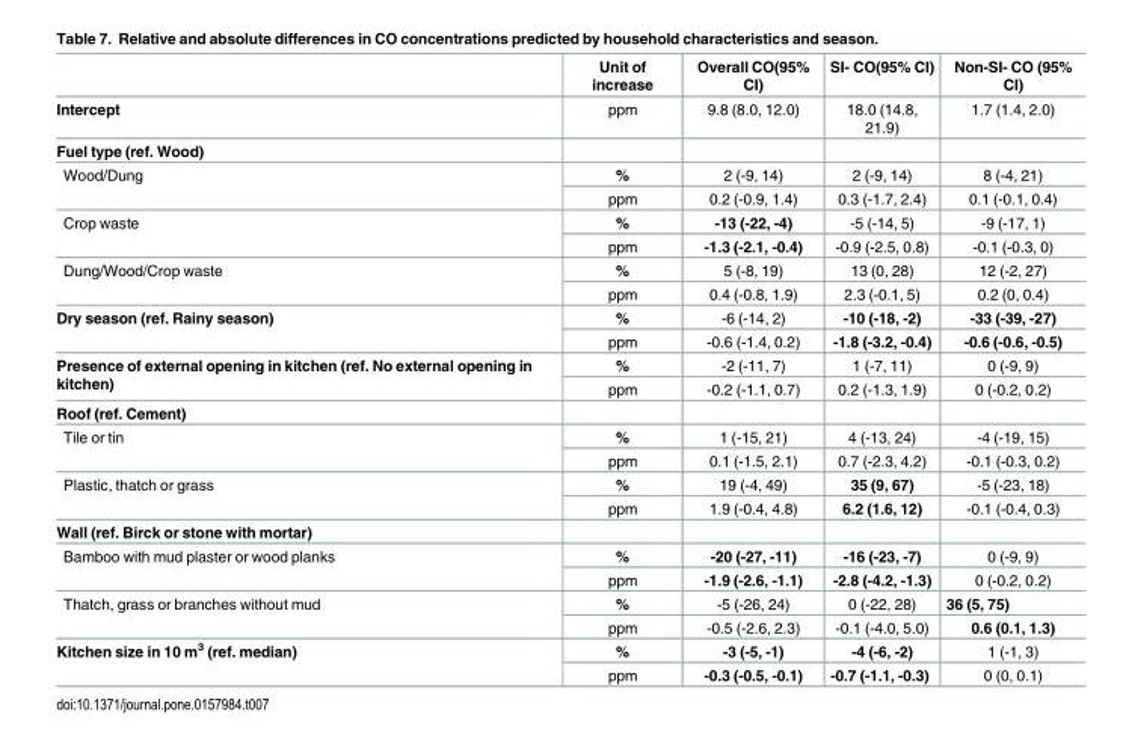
<table><thead><tr><td></td><td>Unit of increase</td><td>Overall CO(95% CI)</td><td>SI- CO(95% CI)</td><td>Non-SI- CO (95% CI)</td></tr></thead><tbody><tr><td>Intercept</td><td>ppm</td><td>9.8 (8.0, 12.0)</td><td>18.0 (14.8, 21.9)</td><td>1.7 (1.4, 2.0)</td></tr><tr><td colspan="5">Fuel type (ref. Wood)</td></tr><tr><td rowspan="2">Wood/Dung</td><td>%</td><td>2 (-9, 14)</td><td>2 (-9, 14)</td><td>8 (-4, 21)</td></tr><tr><td>ppm</td><td>0.2 (-0.9, 1.4)</td><td>0.3 (-1.7, 2.4)</td><td>0.1 (-0.1, 0.4)</td></tr><tr><td rowspan="2">Crop waste</td><td>%</td><td>-13 (-22, -4)</td><td>-5 (-14, 5)</td><td>-9 (-17, 1)</td></tr><tr><td>ppm</td><td>-1.3 (-2.1, -0.4)</td><td>-0.9 (-2.5, 0.8)</td><td>-0.1 (-0.3, 0)</td></tr><tr><td rowspan="2">Dung/Wood/Crop waste</td><td>%</td><td>5 (-8, 19)</td><td>13 (0, 28)</td><td>12 (-2, 27)</td></tr><tr><td>ppm</td><td>0.4 (-0.8, 1.9)</td><td>2.3 (-0.1, 5)</td><td>0.2 (0, 0.4)</td></tr><tr><td rowspan="2">Dry season (ref. Rainy season)</td><td>%</td><td>-6 (-14, 2)</td><td>-10 (-18, -2)</td><td>-33 (-39, -27)</td></tr><tr><td>ppm</td><td>-0.6 (-1.4, 0.2)</td><td>-1.8 (-3.2, -0.4)</td><td>-0.6 (-0.6, -0.5)</td></tr><tr><td rowspan="2">Presence of external opening in kitchen (ref. No external opening in kitchen)</td><td>%</td><td>-2 (-11, 7)</td><td>1 (-7, 11)</td><td>0 (-9, 9)</td></tr><tr><td>ppm</td><td>-0.2 (-1.1, 0.7)</td><td>0.2 (-1.3, 1.9)</td><td>0 (-0.2, 0.2)</td></tr><tr><td colspan="5">Roof (ref. Cement)</td></tr><tr><td rowspan="2">Tile or tin</td><td>%</td><td>1 (-15, 21)</td><td>4 (-13, 24)</td><td>-4 (-19, 15)</td></tr><tr><td>ppm</td><td>0.1 (-1.5, 2.1)</td><td>0.7 (-2.3, 4.2)</td><td>-0.1 (-0.3, 0.2)</td></tr><tr><td rowspan="2">Plastic, thatch or grass</td><td>%</td><td>19 (-4, 49)</td><td>35 (9, 67)</td><td>-5 (-23, 18)</td></tr><tr><td>ppm</td><td>1.9 (-0.4, 4.8)</td><td>6.2 (1.6, 12)</td><td>-0.1 (-0.4, 0.3)</td></tr><tr><td colspan="5">Wall (ref. Birck or stone with mortar)</td></tr><tr><td rowspan="2">Bamboo with mud plaster or wood planks</td><td>%</td><td>-20 (-27, -11)</td><td>-16 (-23, -7)</td><td>0 (-9, 9)</td></tr><tr><td>ppm</td><td>-1.9 (-2.6, -1.1)</td><td>-2.8 (-4.2, -1.3)</td><td>0 (-0.2, 0.2)</td></tr><tr><td rowspan="2">Thatch, grass or branches without mud</td><td>%</td><td>-5 (-26, 24)</td><td>0 (-22, 28)</td><td>36 (5, 75)</td></tr><tr><td>ppm</td><td>-0.5 (-2.6, 2.3)</td><td>-0.1 (-4.0, 5.0)</td><td>0.6 (0.1, 1.3)</td></tr><tr><td rowspan="2">Kitchen size in 10 m<sup>3</sup> (ref. median)</td><td>%</td><td>-3 (-5, -1)</td><td>-4 (-6, -2)</td><td>1 (-1, 3)</td></tr><tr><td>ppm</td><td>-0.3 (-0.5, -0.1)</td><td>-0.7 (-1.1, -0.3)</td><td>0 (0, 0.1)</td></tr></tbody></table>